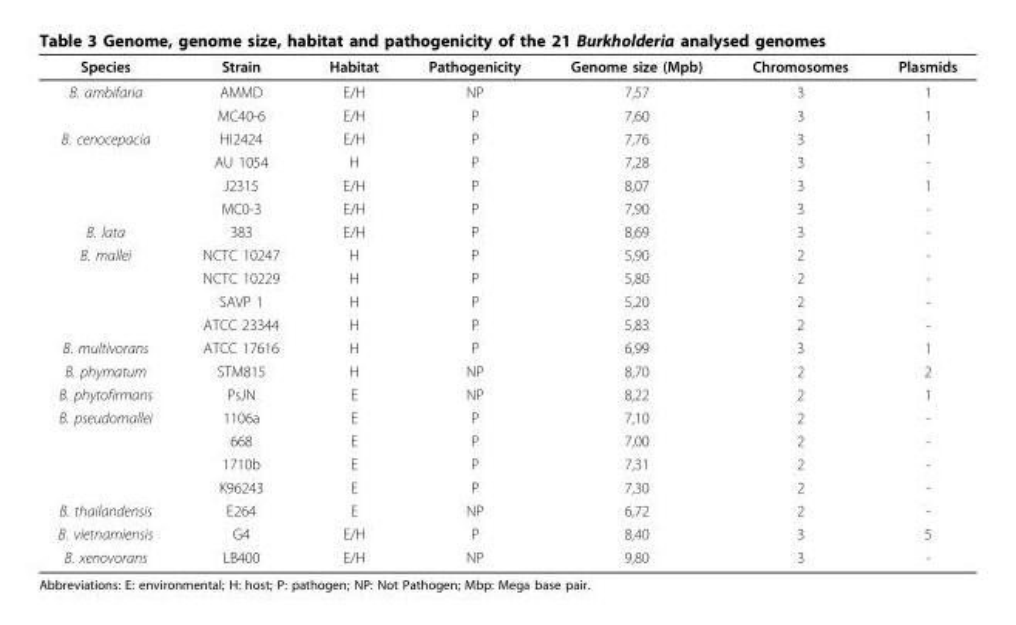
<table><thead><tr><td>Species</td><td>Strain</td><td>Habitat</td><td>Pathogenicity</td><td>Genome size (Mpb)</td><td>Chromosomes</td><td>Plasmids</td></tr></thead><tbody><tr><td rowspan="2">B. ambifaria</td><td>AMMD</td><td>E/H</td><td>NP</td><td>7,57</td><td>3</td><td>1</td></tr><tr><td>MC40-6</td><td>E/H</td><td>P</td><td>7,60</td><td>3</td><td>1</td></tr><tr><td rowspan="4">B. cenocepacia</td><td>HI2424</td><td>E/H</td><td>P</td><td>7,76</td><td>3</td><td>1</td></tr><tr><td>AU 1054</td><td>H</td><td>P</td><td>7,28</td><td>3</td><td>-</td></tr><tr><td>J2315</td><td>E/H</td><td>P</td><td>8,07</td><td>3</td><td>1</td></tr><tr><td>MC0-3</td><td>E/H</td><td>P</td><td>7,90</td><td>3</td><td>-</td></tr><tr><td>B. lata</td><td>383</td><td>E/H</td><td>P</td><td>8,69</td><td>3</td><td>-</td></tr><tr><td rowspan="4">B. mallei</td><td>NCTC 10247</td><td>H</td><td>P</td><td>5,90</td><td>2</td><td>-</td></tr><tr><td>NCTC 10229</td><td>H</td><td>P</td><td>5,80</td><td>2</td><td>-</td></tr><tr><td>SAVP 1</td><td>H</td><td>P</td><td>5,20</td><td>2</td><td>-</td></tr><tr><td>ATCC 23344</td><td>H</td><td>P</td><td>5,83</td><td>2</td><td>-</td></tr><tr><td>B. multivorans</td><td>ATCC 17616</td><td>H</td><td>P</td><td>6,99</td><td>3</td><td>1</td></tr><tr><td>B. phymatum</td><td>STM815</td><td>H</td><td>NP</td><td>8,70</td><td>2</td><td>2</td></tr><tr><td>B. phytofirmans</td><td>PsJN</td><td>E</td><td>NP</td><td>8,22</td><td>2</td><td>1</td></tr><tr><td rowspan="4">B. pseudomallei</td><td>1106a</td><td>E</td><td>P</td><td>7,10</td><td>2</td><td>-</td></tr><tr><td>668</td><td>E</td><td>P</td><td>7,00</td><td>2</td><td>-</td></tr><tr><td>1710b</td><td>E</td><td>P</td><td>7,31</td><td>2</td><td>-</td></tr><tr><td>K96243</td><td>E</td><td>P</td><td>7,30</td><td>2</td><td>-</td></tr><tr><td>B. thailandensis</td><td>E264</td><td>E</td><td>NP</td><td>6,72</td><td>2</td><td>-</td></tr><tr><td>B. vietnamiensis</td><td>G4</td><td>E/H</td><td>P</td><td>8,40</td><td>3</td><td>5</td></tr><tr><td>B. xenovorans</td><td>LB400</td><td>E/H</td><td>NP</td><td>9,80</td><td>3</td><td>-</td></tr></tbody></table>